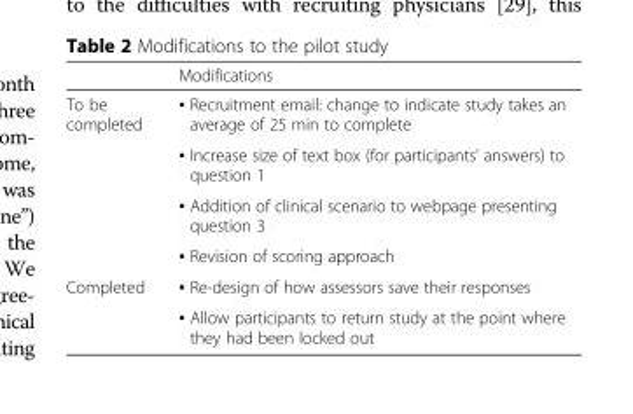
<table><thead><tr><td></td><td>Modifications</td></tr></thead><tbody><tr><td rowspan="4">To be completed</td><td>▪ Recruitment email: change to indicate study takes an average of 25 min to complete</td></tr><tr><td>▪ Increase size of text box (for participants’ answers) to question 1</td></tr><tr><td>▪ Addition of clinical scenario to webpage presenting question 3</td></tr><tr><td>▪ Revision of scoring approach</td></tr><tr><td rowspan="2">Completed</td><td>▪ Re-design of how assessors save their responses</td></tr><tr><td>▪ Allow participants to return study at the point where they had been locked out</td></tr></tbody></table>